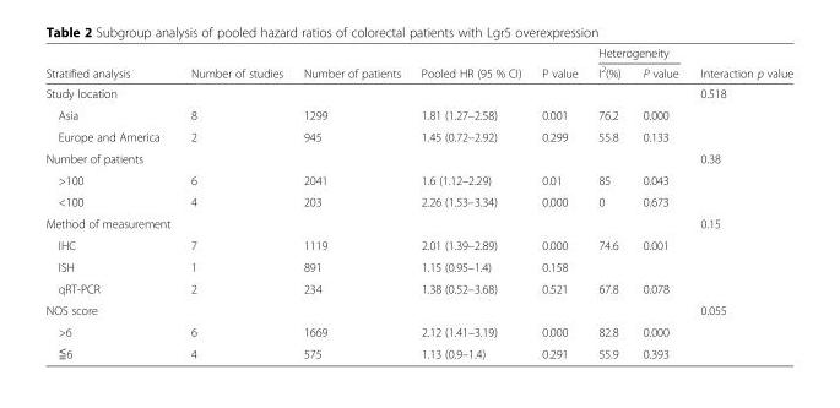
<table><thead><tr><td rowspan="2">Stratified analysis</td><td rowspan="2">Number of studies</td><td rowspan="2">Number of patients</td><td rowspan="2">Pooled HR (95 % CI)</td><td rowspan="2">P value</td><td colspan="2">Heterogeneity</td><td rowspan="2">Interaction p value</td></tr><tr><td>I<sup>2</sup>(%)</td><td>P value</td></tr></thead><tbody><tr><td>Study location</td><td></td><td></td><td></td><td></td><td></td><td></td><td>0.518</td></tr><tr><td>Asia</td><td>8</td><td>1299</td><td>1.81 (1.27–2.58)</td><td>0.001</td><td>76.2</td><td>0.000</td><td></td></tr><tr><td>Europe and America</td><td>2</td><td>945</td><td>1.45 (0.72–2.92)</td><td>0.299</td><td>55.8</td><td>0.133</td><td></td></tr><tr><td>Number of patients</td><td></td><td></td><td></td><td></td><td></td><td></td><td>0.38</td></tr><tr><td>&gt;100</td><td>6</td><td>2041</td><td>1.6 (1.12–2.29)</td><td>0.01</td><td>85</td><td>0.043</td><td></td></tr><tr><td>&lt;100</td><td>4</td><td>203</td><td>2.26 (1.53–3.34)</td><td>0.000</td><td>0</td><td>0.673</td><td></td></tr><tr><td>Method of measurement</td><td></td><td></td><td></td><td></td><td></td><td></td><td>0.15</td></tr><tr><td>IHC</td><td>7</td><td>1119</td><td>2.01 (1.39–2.89)</td><td>0.000</td><td>74.6</td><td>0.001</td><td></td></tr><tr><td>ISH</td><td>1</td><td>891</td><td>1.15 (0.95–1.4)</td><td>0.158</td><td></td><td></td><td></td></tr><tr><td>qRT-PCR</td><td>2</td><td>234</td><td>1.38 (0.52–3.68)</td><td>0.521</td><td>67.8</td><td>0.078</td><td></td></tr><tr><td>NOS score</td><td></td><td></td><td></td><td></td><td></td><td></td><td>0.055</td></tr><tr><td>&gt;6</td><td>6</td><td>1669</td><td>2.12 (1.41–3.19)</td><td>0.000</td><td>82.8</td><td>0.000</td><td></td></tr><tr><td>≦6</td><td>4</td><td>575</td><td>1.13 (0.9–1.4)</td><td>0.291</td><td>55.9</td><td>0.393</td><td></td></tr></tbody></table>